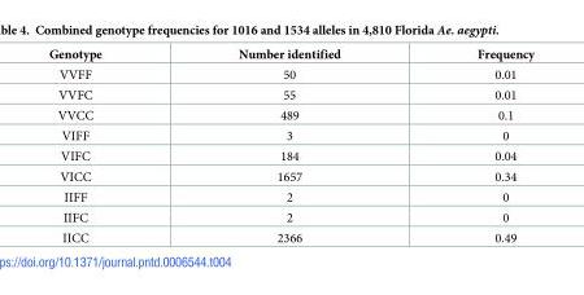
<table><thead><tr><td>Genotype</td><td>Number identified</td><td>Frequency</td></tr></thead><tbody><tr><td>VVFF</td><td>50</td><td>0.01</td></tr><tr><td>VVFC</td><td>55</td><td>0.01</td></tr><tr><td>VVCC</td><td>489</td><td>0.1</td></tr><tr><td>VIFF</td><td>3</td><td>0</td></tr><tr><td>VIFC</td><td>184</td><td>0.04</td></tr><tr><td>VICC</td><td>1657</td><td>0.34</td></tr><tr><td>IIFF</td><td>2</td><td>0</td></tr><tr><td>IIFC</td><td>2</td><td>0</td></tr><tr><td>IICC</td><td>2366</td><td>0.49</td></tr></tbody></table>